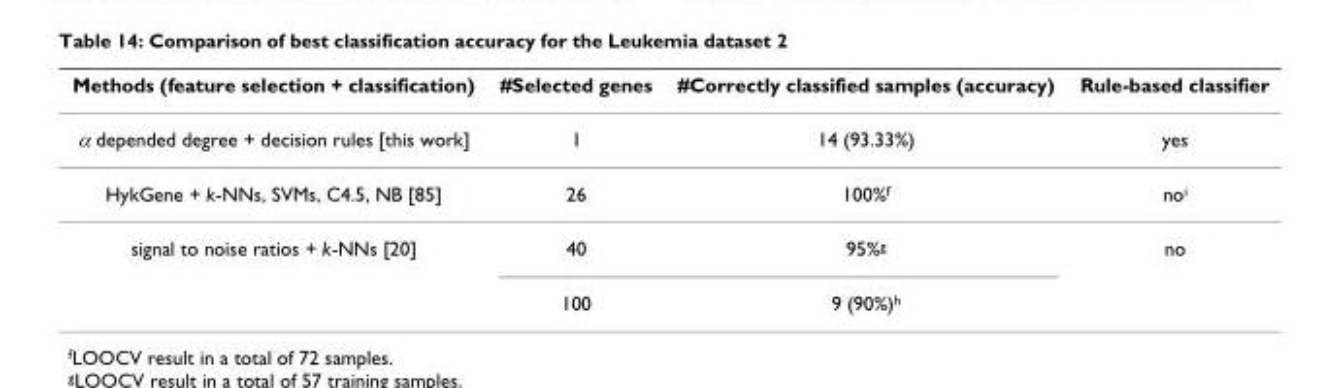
<table><thead><tr><td>Methods (feature selection + classification)</td><td>#Selected genes</td><td>#Correctly classified samples (accuracy)</td><td>Rule-based classifier</td></tr></thead><tbody><tr><td>α depended degree + decision rules [this work]</td><td>1</td><td>14 (93.33%)</td><td>yes</td></tr><tr><td>HykGene + k-NNs, SVMs, C4.5, NB [85]</td><td>26</td><td>100%<sup>f</sup></td><td>no<sup>i</sup></td></tr><tr><td rowspan="2">signal to noise ratios + k-NNs [20]</td><td>40</td><td>95%<sup>g</sup></td><td>no</td></tr><tr><td>100</td><td>9 (90%)<sup>h</sup></td><td></td></tr></tbody></table>